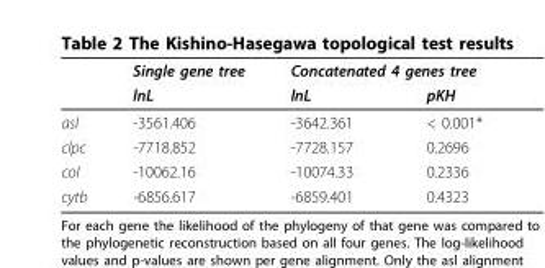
<table><thead><tr><td rowspan="2"></td><td rowspan="2">Single gene tree lnL</td><td colspan="2">Concatenated 4 genes tree</td></tr><tr><td>lnL</td><td>pKH</td></tr></thead><tbody><tr><td>asl</td><td>-3561.406</td><td>-3642.361</td><td>&lt; 0.001*</td></tr><tr><td>clpc</td><td>-7718.852</td><td>-7728.157</td><td>0.2696</td></tr><tr><td>coI</td><td>-10062.16</td><td>-10074.33</td><td>0.2336</td></tr><tr><td>cytb</td><td>-6856.617</td><td>-6859.401</td><td>0.4323</td></tr></tbody></table>